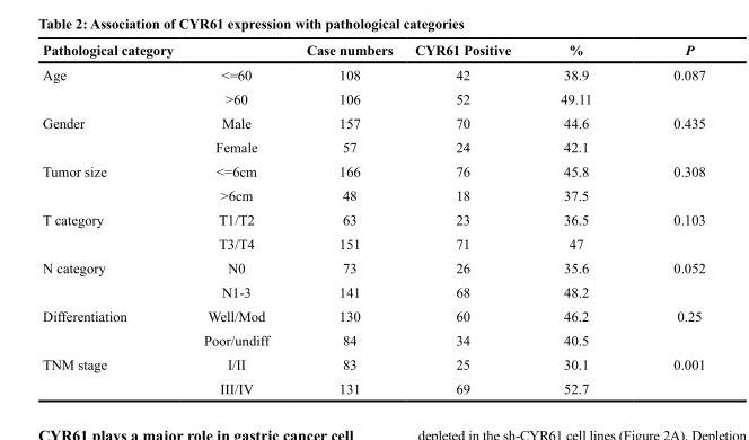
<table><thead><tr><td>Pathological category</td><td></td><td>Case numbers</td><td>CYR61 Positive</td><td>%</td><td>P</td></tr></thead><tbody><tr><td rowspan="2">Age</td><td>&lt;=60</td><td>108</td><td>42</td><td>38.9</td><td>0.087</td></tr><tr><td>&gt;60</td><td>106</td><td>52</td><td>49.11</td><td></td></tr><tr><td rowspan="2">Gender</td><td>Male</td><td>157</td><td>70</td><td>44.6</td><td>0.435</td></tr><tr><td>Female</td><td>57</td><td>24</td><td>42.1</td><td></td></tr><tr><td rowspan="2">Tumor size</td><td>&lt;=6cm</td><td>166</td><td>76</td><td>45.8</td><td>0.308</td></tr><tr><td>&gt;6cm</td><td>48</td><td>18</td><td>37.5</td><td></td></tr><tr><td rowspan="2">T category</td><td>T1/T2</td><td>63</td><td>23</td><td>36.5</td><td>0.103</td></tr><tr><td>T3/T4</td><td>151</td><td>71</td><td>47</td><td></td></tr><tr><td rowspan="2">N category</td><td>N0</td><td>73</td><td>26</td><td>35.6</td><td>0.052</td></tr><tr><td>N1-3</td><td>141</td><td>68</td><td>48.2</td><td></td></tr><tr><td rowspan="2">Differentiation</td><td>Well/Mod</td><td>130</td><td>60</td><td>46.2</td><td>0.25</td></tr><tr><td>Poor/undiff</td><td>84</td><td>34</td><td>40.5</td><td></td></tr><tr><td rowspan="2">TNM stage</td><td>I/II</td><td>83</td><td>25</td><td>30.1</td><td>0.001</td></tr><tr><td>III/IV</td><td>131</td><td>69</td><td>52.7</td><td></td></tr></tbody></table>